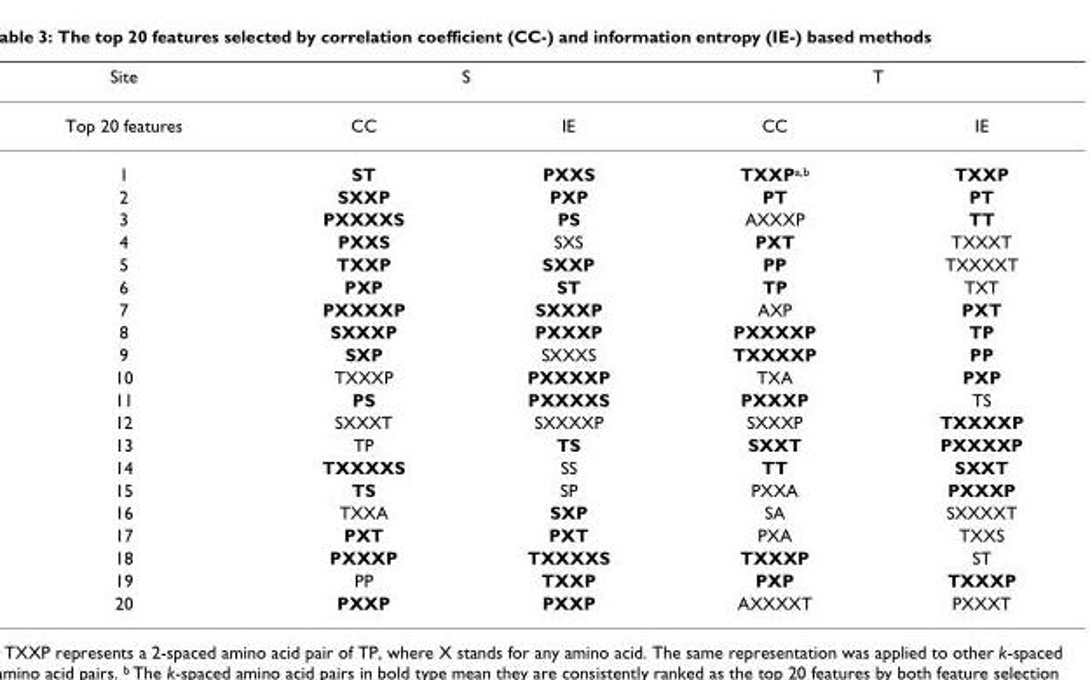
<table><thead><tr><td rowspan="2">Site Top 20 features</td><td colspan="2">S</td><td colspan="2">T</td></tr><tr><td>CC</td><td>IE</td><td>CC</td><td>IE</td></tr></thead><tbody><tr><td>1</td><td>ST</td><td>PXXS</td><td>TXXP<sup>a,b</sup></td><td>TXXP</td></tr><tr><td>2</td><td>SXXP</td><td>PXP</td><td>PT</td><td>PT</td></tr><tr><td>3</td><td>PXXXXS</td><td>PS</td><td>AXXXP</td><td>TT</td></tr><tr><td>4</td><td>PXXS</td><td>SXS</td><td>PXT</td><td>TXXXT</td></tr><tr><td>5</td><td>TXXP</td><td>SXXP</td><td>PP</td><td>TXXXXT</td></tr><tr><td>6</td><td>PXP</td><td>ST</td><td>TP</td><td>TXT</td></tr><tr><td>7</td><td>PXXXXP</td><td>SXXXP</td><td>AXP</td><td>PXT</td></tr><tr><td>8</td><td>SXXXP</td><td>PXXXP</td><td>PXXXXP</td><td>TP</td></tr><tr><td>9</td><td>SXP</td><td>SXXXS</td><td>TXXXXP</td><td>PP</td></tr><tr><td>10</td><td>TXXXP</td><td>PXXXXP</td><td>TXA</td><td>PXP</td></tr><tr><td>11</td><td>PS</td><td>PXXXXS</td><td>PXXXP</td><td>TS</td></tr><tr><td>12</td><td>SXXXT</td><td>SXXXXP</td><td>SXXXP</td><td>TXXXXP</td></tr><tr><td>13</td><td>TP</td><td>TS</td><td>SXXT</td><td>PXXXXP</td></tr><tr><td>14</td><td>TXXXXS</td><td>SS</td><td>TT</td><td>SXXT</td></tr><tr><td>15</td><td>TS</td><td>SP</td><td>PXXA</td><td>PXXXP</td></tr><tr><td>16</td><td>TXXA</td><td>SXP</td><td>SA</td><td>SXXXXT</td></tr><tr><td>17</td><td>PXT</td><td>PXT</td><td>PXA</td><td>TXXS</td></tr><tr><td>18</td><td>PXXXP</td><td>TXXXXS</td><td>TXXXP</td><td>ST</td></tr><tr><td>19</td><td>PP</td><td>TXXP</td><td>PXP</td><td>TXXXP</td></tr><tr><td>20</td><td>PXXP</td><td>PXXP</td><td>AXXXXT</td><td>PXXXT</td></tr></tbody></table>